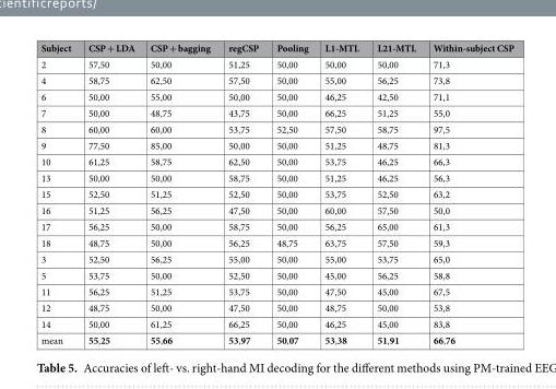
<table><thead><tr><td>Subject</td><td>CSP + LDA</td><td>CSP + bagging</td><td>regCSP</td><td>Pooling</td><td>L1-MTL</td><td>L21-MTL</td><td>Within-subject CSP</td></tr></thead><tbody><tr><td>2</td><td>57,50</td><td>50,00</td><td>51,25</td><td>50,00</td><td>50,00</td><td>50,00</td><td>71,3</td></tr><tr><td>4</td><td>58,75</td><td>62,50</td><td>57,50</td><td>50,00</td><td>55,00</td><td>56,25</td><td>73,8</td></tr><tr><td>6</td><td>50,00</td><td>55,00</td><td>50,00</td><td>50,00</td><td>46,25</td><td>42,50</td><td>71,1</td></tr><tr><td>7</td><td>50,00</td><td>48,75</td><td>43,75</td><td>50,00</td><td>66,25</td><td>51,25</td><td>55,0</td></tr><tr><td>8</td><td>60,00</td><td>60,00</td><td>53,75</td><td>52,50</td><td>57,50</td><td>58,75</td><td>97,5</td></tr><tr><td>9</td><td>77,50</td><td>85,00</td><td>50,00</td><td>50,00</td><td>51,25</td><td>48,75</td><td>81,3</td></tr><tr><td>10</td><td>61,25</td><td>58,75</td><td>62,50</td><td>50,00</td><td>53,75</td><td>46,25</td><td>66,3</td></tr><tr><td>13</td><td>50,00</td><td>50,00</td><td>58,75</td><td>50,00</td><td>51,25</td><td>46,25</td><td>56,3</td></tr><tr><td>15</td><td>52,50</td><td>51,25</td><td>52,50</td><td>50,00</td><td>53,75</td><td>52,50</td><td>63,2</td></tr><tr><td>16</td><td>51,25</td><td>56,25</td><td>47,50</td><td>50,00</td><td>60,00</td><td>57,50</td><td>50,0</td></tr><tr><td>17</td><td>56,25</td><td>50,00</td><td>58,75</td><td>50,00</td><td>56,25</td><td>65,00</td><td>61,3</td></tr><tr><td>18</td><td>48,75</td><td>50,00</td><td>56,25</td><td>48,75</td><td>63,75</td><td>57,50</td><td>59,3</td></tr><tr><td>3</td><td>52,50</td><td>56,25</td><td>55,00</td><td>50,00</td><td>55,00</td><td>53,75</td><td>65,0</td></tr><tr><td>5</td><td>53,75</td><td>50,00</td><td>52,50</td><td>50,00</td><td>45,00</td><td>56,25</td><td>58,8</td></tr><tr><td>11</td><td>56,25</td><td>51,25</td><td>53,75</td><td>50,00</td><td>47,50</td><td>45,00</td><td>67,5</td></tr><tr><td>12</td><td>48,75</td><td>50,00</td><td>47,50</td><td>50,00</td><td>48,75</td><td>50,00</td><td>53,8</td></tr><tr><td>14</td><td>50,00</td><td>61,25</td><td>66,25</td><td>50,00</td><td>46,25</td><td>45,00</td><td>83,8</td></tr><tr><td>mean</td><td>55,25</td><td>55,66</td><td>53,97</td><td>50,07</td><td>53,38</td><td>51,91</td><td>66,76</td></tr></tbody></table>